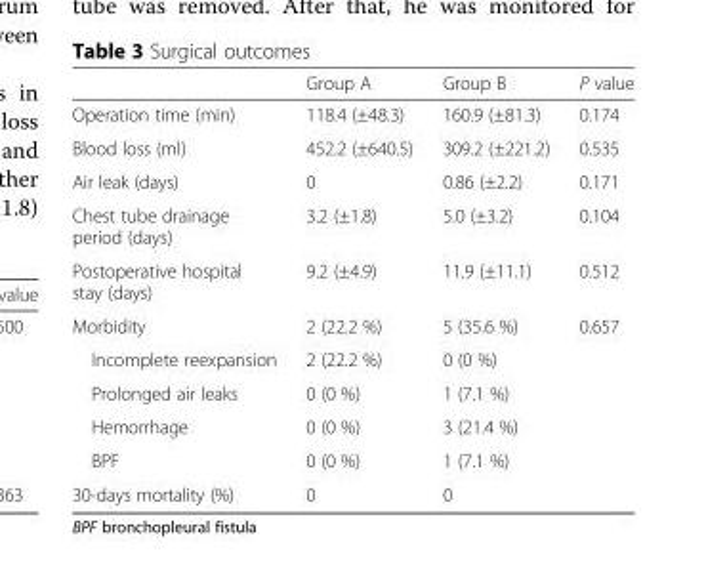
<table><thead><tr><td></td><td>Group A</td><td>Group B</td><td>P value</td></tr></thead><tbody><tr><td>Operation time (min)</td><td>118.4 (±48.3)</td><td>160.9 (±81.3)</td><td>0.174</td></tr><tr><td>Blood loss (ml)</td><td>452.2 (±640.5)</td><td>309.2 (±221.2)</td><td>0.535</td></tr><tr><td>Air leak (days)</td><td>0</td><td>0.86 (±2.2)</td><td>0.171</td></tr><tr><td>Chest tube drainage period (days)</td><td>3.2 (±1.8)</td><td>5.0 (±3.2)</td><td>0.104</td></tr><tr><td>Postoperative hospital stay (days)</td><td>9.2 (±4.9)</td><td>11.9 (±11.1)</td><td>0.512</td></tr><tr><td>Morbidity</td><td>2 (22.2 %)</td><td>5 (35.6 %)</td><td>0.657</td></tr><tr><td>Incomplete reexpansion</td><td>2 (22.2 %)</td><td>0 (0 %)</td><td rowspan="4"></td></tr><tr><td>Prolonged air leaks</td><td>0 (0 %)</td><td>1 (7.1 %)</td></tr><tr><td>Hemorrhage</td><td>0 (0 %)</td><td>3 (21.4 %)</td></tr><tr><td>BPF</td><td>0 (0 %)</td><td>1 (7.1 %)</td></tr><tr><td>30-days mortality (%)</td><td>0</td><td>0</td><td></td></tr></tbody></table>